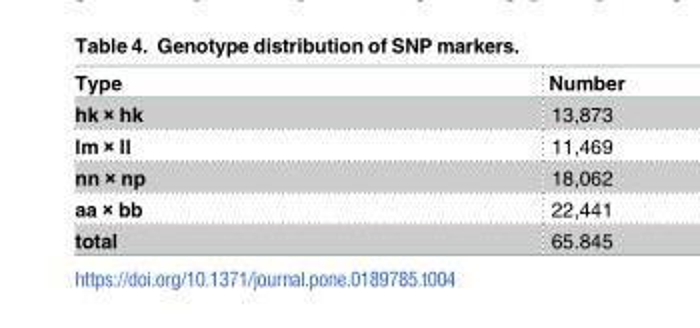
<table><thead><tr><td>Type</td><td>Number</td></tr></thead><tbody><tr><td>hk × hk</td><td>13,873</td></tr><tr><td>lm × ll</td><td>11,469</td></tr><tr><td>nn × np</td><td>18,062</td></tr><tr><td>aa × bb</td><td>22,441</td></tr><tr><td>total</td><td>65.845</td></tr></tbody></table>